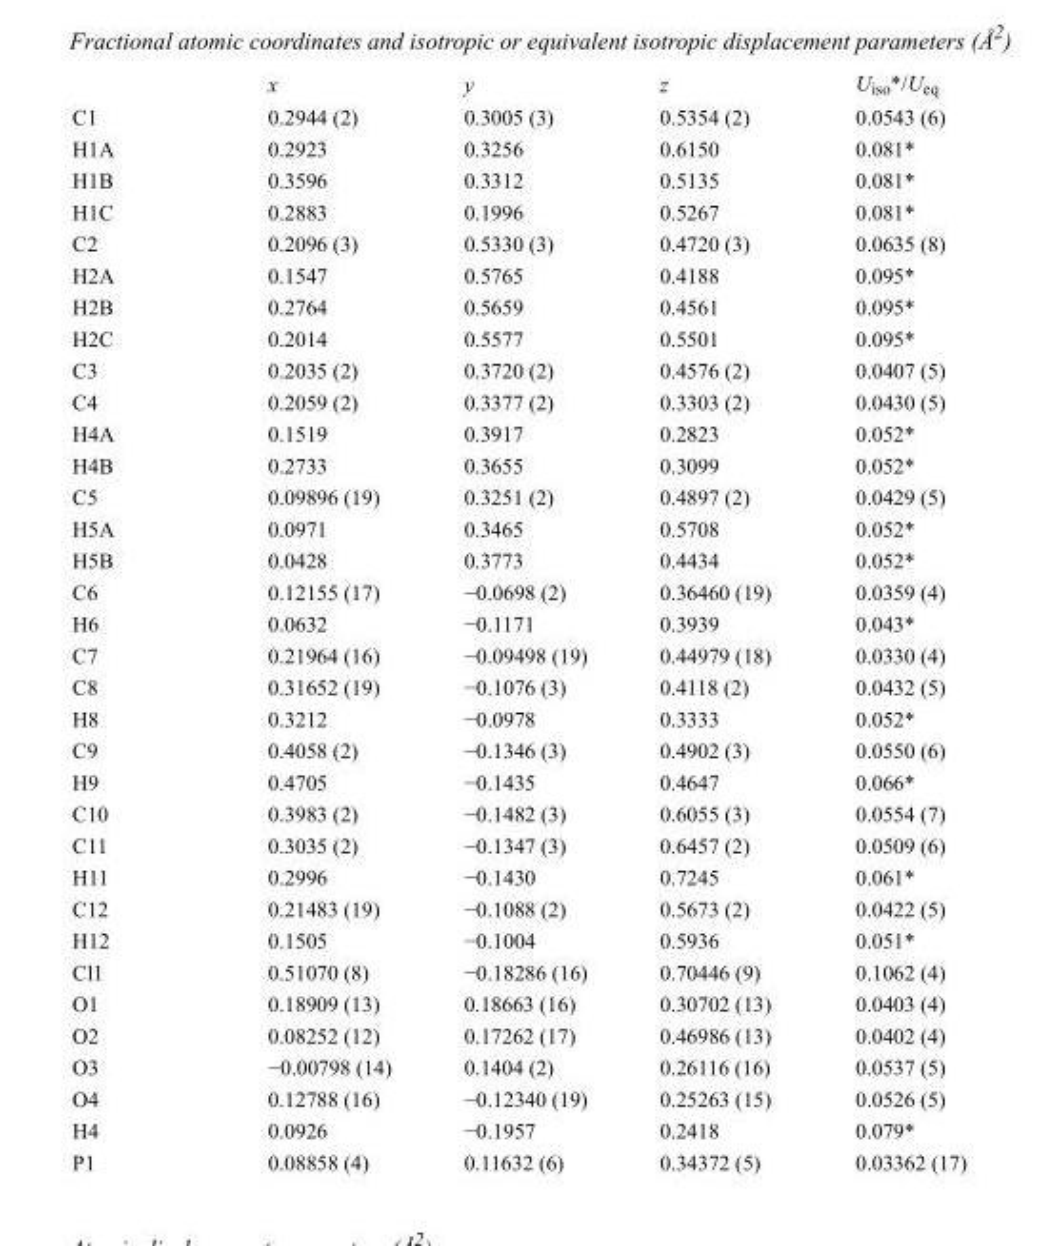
<table><thead><tr><td></td><td>x</td><td>y</td><td>z</td><td>U<sub>iso</sub>*/U<sub>eq</sub></td></tr></thead><tbody><tr><td>C1</td><td>0.2944 (2)</td><td>0.3005 (3)</td><td>0.5354 (2)</td><td>0.0543 (6)</td></tr><tr><td>H1A</td><td>0.2923</td><td>0.3256</td><td>0.6150</td><td>0.081*</td></tr><tr><td>H1B</td><td>0.3596</td><td>0.3312</td><td>0.5135</td><td>0.081*</td></tr><tr><td>H1C</td><td>0.2883</td><td>0.1996</td><td>0.5267</td><td>0.081*</td></tr><tr><td>C2</td><td>0.2096 (3)</td><td>0.5330 (3)</td><td>0.4720 (3)</td><td>0.0635 (8)</td></tr><tr><td>H2A</td><td>0.1547</td><td>0.5765</td><td>0.4188</td><td>0.095*</td></tr><tr><td>H2B</td><td>0.2764</td><td>0.5659</td><td>0.4561</td><td>0.095*</td></tr><tr><td>H2C</td><td>0.2014</td><td>0.5577</td><td>0.5501</td><td>0.095*</td></tr><tr><td>C3</td><td>0.2035 (2)</td><td>0.3720 (2)</td><td>0.4576 (2)</td><td>0.0407 (5)</td></tr><tr><td>C4</td><td>0.2059 (2)</td><td>0.3377 (2)</td><td>0.3303 (2)</td><td>0.0430 (5)</td></tr><tr><td>H4A</td><td>0.1519</td><td>0.3917</td><td>0.2823</td><td>0.052*</td></tr><tr><td>H4B</td><td>0.2733</td><td>0.3655</td><td>0.3099</td><td>0.052*</td></tr><tr><td>C5</td><td>0.09896 (19)</td><td>0.3251 (2)</td><td>0.4897 (2)</td><td>0.0429 (5)</td></tr><tr><td>H5A</td><td>0.0971</td><td>0.3465</td><td>0.5708</td><td>0.052*</td></tr><tr><td>H5B</td><td>0.0428</td><td>0.3773</td><td>0.4434</td><td>0.052*</td></tr><tr><td>C6</td><td>0.12155 (17)</td><td>−0.0698 (2)</td><td>0.36460 (19)</td><td>0.0359 (4)</td></tr><tr><td>H6</td><td>0.0632</td><td>−0.1171</td><td>0.3939</td><td>0.043*</td></tr><tr><td>C7</td><td>0.21964 (16)</td><td>−0.09498 (19)</td><td>0.44979 (18)</td><td>0.0330 (4)</td></tr><tr><td>C8</td><td>0.31652 (19)</td><td>−0.1076 (3)</td><td>0.4118 (2)</td><td>0.0432 (5)</td></tr><tr><td>H8</td><td>0.3212</td><td>−0.0978</td><td>0.3333</td><td>0.052*</td></tr><tr><td>C9</td><td>0.4058 (2)</td><td>−0.1346 (3)</td><td>0.4902 (3)</td><td>0.0550 (6)</td></tr><tr><td>H9</td><td>0.4705</td><td>−0.1435</td><td>0.4647</td><td>0.066*</td></tr><tr><td>C10</td><td>0.3983 (2)</td><td>−0.1482 (3)</td><td>0.6055 (3)</td><td>0.0554 (7)</td></tr><tr><td>C11</td><td>0.3035 (2)</td><td>−0.1347 (3)</td><td>0.6457 (2)</td><td>0.0509 (6)</td></tr><tr><td>H11</td><td>0.2996</td><td>−0.1430</td><td>0.7245</td><td>0.061*</td></tr><tr><td>C12</td><td>0.21483 (19)</td><td>−0.1088 (2)</td><td>0.5673 (2)</td><td>0.0422 (5)</td></tr><tr><td>H12</td><td>0.1505</td><td>−0.1004</td><td>0.5936</td><td>0.051*</td></tr><tr><td>Cl1</td><td>0.51070 (8)</td><td>−0.18286 (16)</td><td>0.70446 (9)</td><td>0.1062 (4)</td></tr><tr><td>O1</td><td>0.18909 (13)</td><td>0.18663 (16)</td><td>0.30702 (13)</td><td>0.0403 (4)</td></tr><tr><td>O2</td><td>0.08252 (12)</td><td>0.17262 (17)</td><td>0.46986 (13)</td><td>0.0402 (4)</td></tr><tr><td>O3</td><td>−0.00798 (14)</td><td>0.1404 (2)</td><td>0.26116 (16)</td><td>0.0537 (5)</td></tr><tr><td>O4</td><td>0.12788 (16)</td><td>−0.12340 (19)</td><td>0.25263 (15)</td><td>0.0526 (5)</td></tr><tr><td>H4</td><td>0.0926</td><td>−0.1957</td><td>0.2418</td><td>0.079*</td></tr><tr><td>P1</td><td>0.08858 (4)</td><td>0.11632 (6)</td><td>0.34372 (5)</td><td>0.03362 (17)</td></tr></tbody></table>